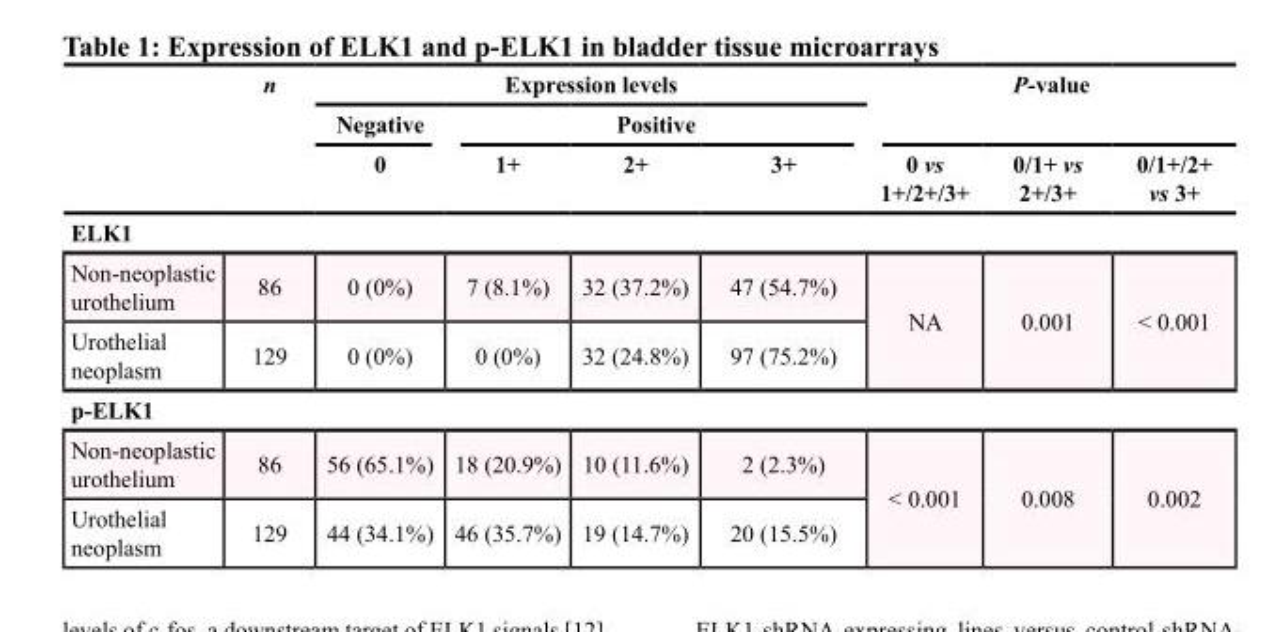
<table><thead><tr><td rowspan="3"></td><td rowspan="3">n</td><td colspan="4">Expression levels</td><td colspan="3">P-value</td></tr><tr><td rowspan="2">Negative 0</td><td colspan="3">Positive</td><td rowspan="2">0 vs 1+/2+/3+</td><td rowspan="2">0/1+ vs 2+/3+</td><td rowspan="2">0/1+/2+ vs 3+</td></tr><tr><td>1+</td><td>2+</td><td>3+</td></tr></thead><tbody><tr><td colspan="9">ELK1</td></tr><tr><td>Non-neoplastic urothelium</td><td>86</td><td>0 (0%)</td><td>7 (8.1%)</td><td>32 (37.2%)</td><td>47 (54.7%)</td><td rowspan="2">NA</td><td rowspan="2">0.001</td><td rowspan="2">&lt; 0.001</td></tr><tr><td>Urothelial neoplasm</td><td>129</td><td>0 (0%)</td><td>0 (0%)</td><td>32 (24.8%)</td><td>97 (75.2%)</td></tr><tr><td colspan="9">p-ELK1</td></tr><tr><td>Non-neoplastic urothelium</td><td>86</td><td>56 (65.1%)</td><td>18 (20.9%)</td><td>10 (11.6%)</td><td>2 (2.3%)</td><td rowspan="2">&lt; 0.001</td><td rowspan="2">0.008</td><td rowspan="2">0.002</td></tr><tr><td>Urothelial neoplasm</td><td>129</td><td>44 (34.1%)</td><td>46 (35.7%)</td><td>19 (14.7%)</td><td>20 (15.5%)</td></tr></tbody></table>